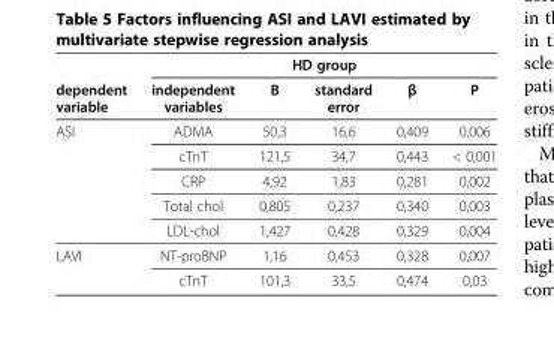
<table><thead><tr><td rowspan="2">dependent variable</td><td colspan="5">HD group</td></tr><tr><td>independent variables</td><td>B</td><td>standard error</td><td>β</td><td>P</td></tr></thead><tbody><tr><td rowspan="5">ASI</td><td>ADMA</td><td>50,3</td><td>16,6</td><td>0,409</td><td>0,006</td></tr><tr><td>cTnT</td><td>121,5</td><td>34,7</td><td>0,443</td><td>&lt; 0,001</td></tr><tr><td>CRP</td><td>4,92</td><td>1,83</td><td>0,281</td><td>0,002</td></tr><tr><td>Total chol</td><td>0,805</td><td>0,237</td><td>0,340</td><td>0,003</td></tr><tr><td>LDL-chol</td><td>1,427</td><td>0,428</td><td>0,329</td><td>0,004</td></tr><tr><td rowspan="2">LAVI</td><td>NT-proBNP</td><td>1,16</td><td>0,453</td><td>0,328</td><td>0,007</td></tr><tr><td>cTnT</td><td>101,3</td><td>33,5</td><td>0,474</td><td>0,03</td></tr></tbody></table>